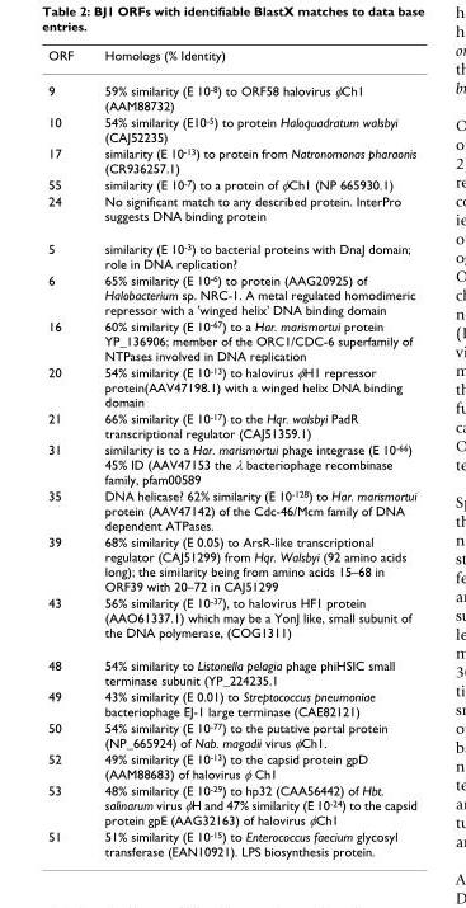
<table><thead><tr><td>ORF</td><td>Homologs (% Identity)</td></tr></thead><tbody><tr><td>9</td><td>59% similarity (E 10<sup>-8</sup>) to ORF58 halovirus φCh1 (AAM88732)</td></tr><tr><td>10</td><td>54% similarity (E10<sup>-5</sup>) to protein Haloquadratum walsbyi (CAJ52235)</td></tr><tr><td>17</td><td>similarity (E 10<sup>-13</sup>) to protein from Natronomonas pharaonis (CR936257.1)</td></tr><tr><td>55</td><td>similarity (E 10<sup>-7</sup>) to a protein of φCh1 (NP 665930.1)</td></tr><tr><td>24</td><td>No significant match to any described protein. InterPro suggests DNA binding protein</td></tr><tr><td>5</td><td>similarity (E 10<sup>-3</sup>) to bacterial proteins with DnaJ domain; role in DNA replication?</td></tr><tr><td>6</td><td>65% similarity (E 10<sup>-6</sup>) to protein (AAG20925) of Halobacterium sp. NRC-1. A metal regulated homodimeric repressor with a &#x27;winged helix&#x27; DNA binding domain</td></tr><tr><td>16</td><td>60% similarity (E 10<sup>-67</sup>) to a Har. marismortui protein YP_136906; member of the ORC1/CDC-6 superfamily of NTPases involved in DNA replication</td></tr><tr><td>20</td><td>54% similarity (E 10<sup>-13</sup>) to halovirus φH1 repressor protein(AAV47198.1) with a winged helix DNA binding domain</td></tr><tr><td>21</td><td>66% similarity (E 10<sup>-17</sup>) to the Hqr. walsbyi PadR transcriptional regulator (CAJ51359.1)</td></tr><tr><td>31</td><td>similarity is to a Har. marismortui phage integrase (E 10<sup>-66</sup>) 45% ID (AAV47153 the λ bacteriophage recombinase family, pfam00589</td></tr><tr><td>35</td><td>DNA helicase? 62% similarity (E 10<sup>-128</sup>) to Har. marismortui protein (AAV47142) of the Cdc-46/Mcm family of DNA dependent ATPases.</td></tr><tr><td>39</td><td>68% similarity (E 0.05) to ArsR-like transcriptional regulator (CAJ51299) from Hqr. Walsbyi (92 amino acids long); the similarity being from amino acids 15–68 in ORF39 with 20–72 in CAJ51299</td></tr><tr><td>43</td><td>56% similarity (E 10<sup>-37</sup>), to halovirus HF1 protein (AAO61337.1) which may be a YonJ like, small subunit of the DNA polymerase, (COG1311)</td></tr><tr><td>48</td><td>54% similarity to Listonella pelagia phage phiHSIC small terminase subunit (YP_224235.1</td></tr><tr><td>49</td><td>43% similarity (E 0.01) to Streptococcus pneumoniae bacteriophage EJ-1 large terminase (CAE82121)</td></tr><tr><td>50</td><td>54% similarity (E 10<sup>-77</sup>) to the putative portal protein (NP_665924) of Nab. magadii virus φCh1.</td></tr><tr><td>52</td><td>49% similarity (E 10<sup>-13</sup>) to the capsid protein gpD (AAM88683) of halovirus φ Ch1</td></tr><tr><td>53</td><td>48% similarity (E 10<sup>-29</sup>) to hp32 (CAA56442) of Hbt. salinarum virus φH and 47% similarity (E 10<sup>-24</sup>) to the capsid protein gpE (AAG32163) of halovirus φCh1</td></tr><tr><td>51</td><td>51% similarity (E 10<sup>-15</sup>) to Enterococcus faecium glycosyl transferase (EAN10921). LPS biosynthesis protein.</td></tr></tbody></table>